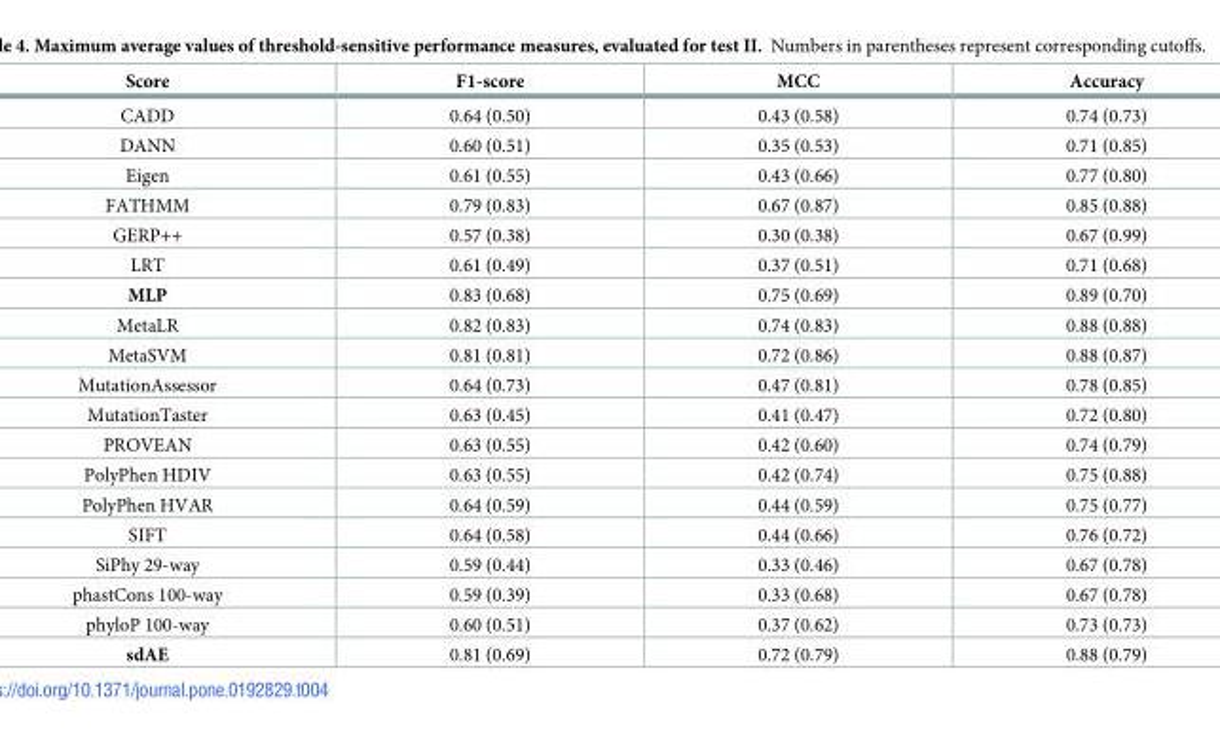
<table><thead><tr><td>Score</td><td>F1-score</td><td>MCC</td><td>Accuracy</td></tr></thead><tbody><tr><td>CADD</td><td>0.64 (0.50)</td><td>0.43 (0.58)</td><td>0.74 (0.73)</td></tr><tr><td>DANN</td><td>0.60 (0.51)</td><td>0.35 (0.53)</td><td>0.71 (0.85)</td></tr><tr><td>Eigen</td><td>0.61 (0.55)</td><td>0.43 (0.66)</td><td>0.77 (0.80)</td></tr><tr><td>FATHMM</td><td>0.79 (0.83)</td><td>0.67 (0.87)</td><td>0.85 (0.88)</td></tr><tr><td>GERP++</td><td>0.57 (0.38)</td><td>0.30 (0.38)</td><td>0.67 (0.99)</td></tr><tr><td>LRT</td><td>0.61 (0.49)</td><td>0.37 (0.51)</td><td>0.71 (0.68)</td></tr><tr><td>MLP</td><td>0.83 (0.68)</td><td>0.75 (0.69)</td><td>0.89 (0.70)</td></tr><tr><td>MetaLR</td><td>0.82 (0.83)</td><td>0.74 (0.83)</td><td>0.88 (0.88)</td></tr><tr><td>MetaSVM</td><td>0.81 (0.81)</td><td>0.72 (0.86)</td><td>0.88 (0.87)</td></tr><tr><td>MutationAssessor</td><td>0.64 (0.73)</td><td>0.47 (0.81)</td><td>0.78 (0.85)</td></tr><tr><td>MutationTaster</td><td>0.63 (0.45)</td><td>0.41 (0.47)</td><td>0.72 (0.80)</td></tr><tr><td>PROVEAN</td><td>0.63 (0.55)</td><td>0.42 (0.60)</td><td>0.74 (0.79)</td></tr><tr><td>PolyPhen HDIV</td><td>0.63 (0.55)</td><td>0.42 (0.74)</td><td>0.75 (0.88)</td></tr><tr><td>PolyPhen HVAR</td><td>0.64 (0.59)</td><td>0.44 (0.59)</td><td>0.75 (0.77)</td></tr><tr><td>SIFT</td><td>0.64 (0.58)</td><td>0.44 (0.66)</td><td>0.76 (0.72)</td></tr><tr><td>SiPhy 29-way</td><td>0.59 (0.44)</td><td>0.33 (0.46)</td><td>0.67 (0.78)</td></tr><tr><td>phastCons 100-way</td><td>0.59 (0.39)</td><td>0.33 (0.68)</td><td>0.67 (0.78)</td></tr><tr><td>phyloP 100-way</td><td>0.60 (0.51)</td><td>0.37 (0.62)</td><td>0.73 (0.73)</td></tr><tr><td>sdAE</td><td>0.81 (0.69)</td><td>0.72 (0.79)</td><td>0.88 (0.79)</td></tr></tbody></table>